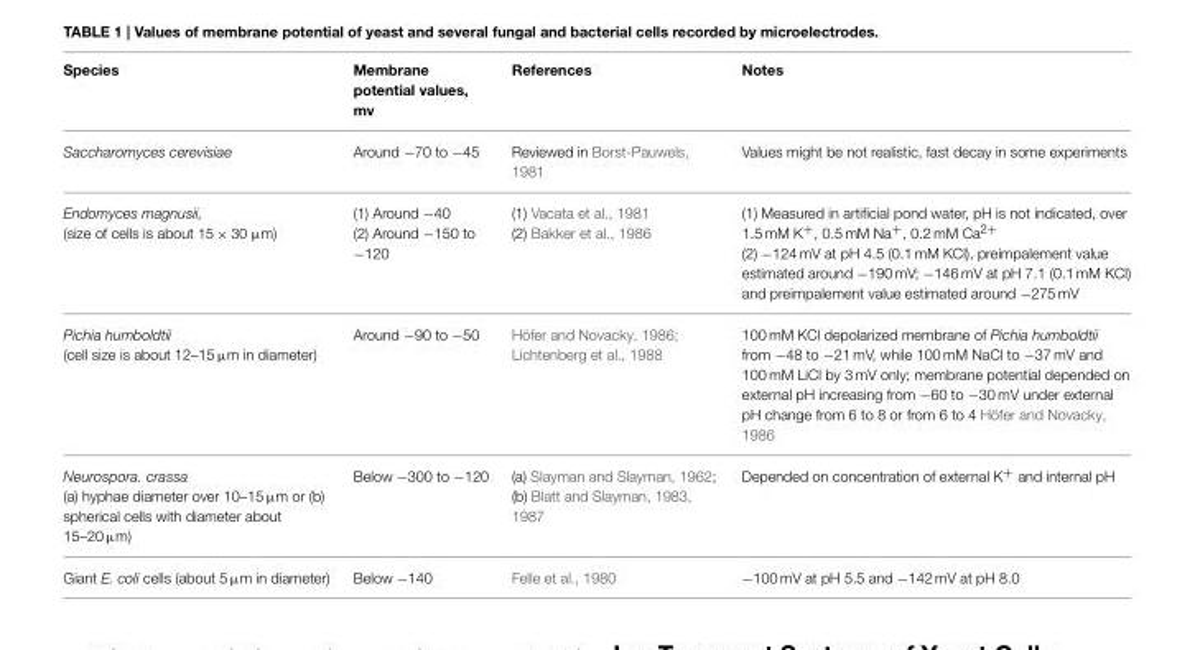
<table><thead><tr><td>Species</td><td>Membrane potential values, mv</td><td>References</td><td>Notes</td></tr></thead><tbody><tr><td>Saccharomyces cerevisiae</td><td>Around −70 to −45</td><td>Reviewed in Borst-Pauwels, 1981</td><td>Values might be not realistic, fast decay in some experiments</td></tr><tr><td>Endomyces magnusii, (size of cells is about 15 × 30 µm)</td><td>(1) Around −40 (2) Around −150 to −120</td><td>(1) Vacata et al., 1981 (2) Bakker et al., 1986</td><td>(1) Measured in artificial pond water, pH is not indicated, over 1.5 mM K<sup>+</sup>, 0.5 mM Na<sup>+</sup>, 0.2 mM Ca<sup>2+</sup> (2) −124 mV at pH 4.5 (0.1 mM KCl), preimpalement value estimated around −190 mV; −146 mV at pH 7.1 (0.1 mM KCl) and preimpalement value estimated around −275 mV</td></tr><tr><td>Pichia humboldtii (cell size is about 12–15 µm in diameter)</td><td>Around −90 to −50</td><td>Höfer and Novacky, 1986; Lichtenberg et al., 1988</td><td>100 mM KCl depolarized membrane of Pichia humboldtii from −48 to −21 mV, while 100 mM NaCl to −37 mV and 100 mM LiCl by 3 mV only; membrane potential depended on external pH increasing from −60 to −30 mV under external pH change from 6 to 8 or from 6 to 4 Höfer and Novacky, 1986</td></tr><tr><td>Neurospora. crassa (a) hyphae diameter over 10–15 µm or (b) spherical cells with diameter about 15–20 µm)</td><td>Below −300 to −120</td><td>(a) Slayman and Slayman, 1962; (b) Blatt and Slayman, 1983, 1987</td><td>Depended on concentration of external K<sup>+</sup> and internal pH</td></tr><tr><td>Giant E. coli cells (about 5 µm in diameter)</td><td>Below −140</td><td>Felle et al., 1980</td><td>−100 mV at pH 5.5 and −142 mV at pH 8.0</td></tr></tbody></table>